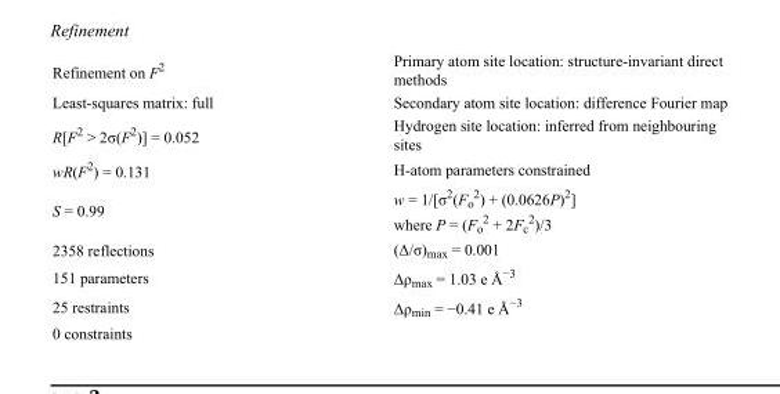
<table><tbody><tr><td>Refinement on F<sup>2</sup></td><td>Primary atom site location: structure-invariant direct methods</td></tr><tr><td>Least-squares matrix: full</td><td>Secondary atom site location: difference Fourier map</td></tr><tr><td>R[F<sup>2</sup> &gt; 2σ(F<sup>2</sup>)] = 0.052</td><td>Hydrogen site location: inferred from neighbouring sites</td></tr><tr><td>wR(F<sup>2</sup>) = 0.131</td><td>H-atom parameters constrained</td></tr><tr><td>S = 0.99</td><td>w = 1/[σ<sup>2</sup>(F<sub>o</sub> <sup>2</sup>) + (0.0626P)<sup>2</sup>] where P = (F<sub>o</sub> <sup>2</sup> + 2F<sub>c</sub> <sup>2</sup>)/3</td></tr><tr><td>2358 reflections</td><td>(Δ/σ)<sub>max</sub> = 0.001</td></tr><tr><td>151 parameters</td><td>Δρ<sub>max</sub> = 1.03 e Å<sup>−3</sup></td></tr><tr><td>25 restraints</td><td>Δρ<sub>min</sub> = −0.41 e Å<sup>−3</sup></td></tr><tr><td>0 constraints</td><td></td></tr></tbody></table>